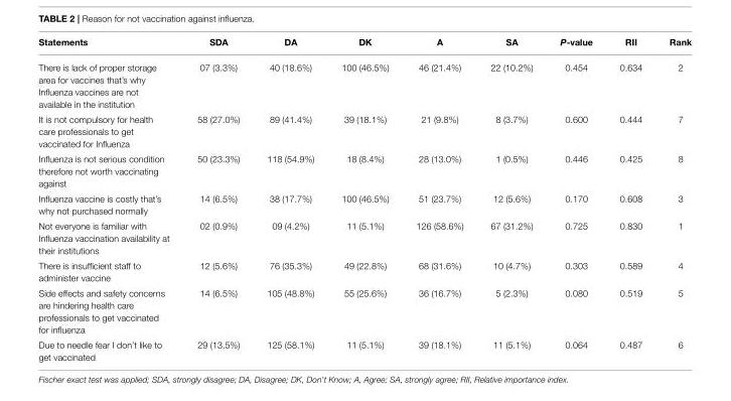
<table><thead><tr><td>Statements</td><td>SDA</td><td>DA</td><td>DK</td><td>A</td><td>SA</td><td>P-value</td><td>RII</td><td>Rank</td></tr></thead><tbody><tr><td>There is lack of proper storage area for vaccines that’s why Influenza vaccines are not available in the institution</td><td>07 (3.3%)</td><td>40 (18.6%)</td><td>100 (46.5%)</td><td>46 (21.4%)</td><td>22 (10.2%)</td><td>0.454</td><td>0.634</td><td>2</td></tr><tr><td>It is not compulsory for health care professionals to get vaccinated for Influenza</td><td>58 (27.0%)</td><td>89 (41.4%)</td><td>39 (18.1%)</td><td>21 (9.8%)</td><td>8 (3.7%)</td><td>0.600</td><td>0.444</td><td>7</td></tr><tr><td>Influenza is not serious condition therefore not worth vaccinating against</td><td>50 (23.3%)</td><td>118 (54.9%)</td><td>18 (8.4%)</td><td>28 (13.0%)</td><td>1 (0.5%)</td><td>0.446</td><td>0.425</td><td>8</td></tr><tr><td>Influenza vaccine is costly that’s why not purchased normally</td><td>14 (6.5%)</td><td>38 (17.7%)</td><td>100 (46.5%)</td><td>51 (23.7%)</td><td>12 (5.6%)</td><td>0.170</td><td>0.608</td><td>3</td></tr><tr><td>Not everyone is familiar with Influenza vaccination availability at their institutions</td><td>02 (0.9%)</td><td>09 (4.2%)</td><td>11 (5.1%)</td><td>126 (58.6%)</td><td>67 (31.2%)</td><td>0.725</td><td>0.830</td><td>1</td></tr><tr><td>There is insufficient staff to administer vaccine</td><td>12 (5.6%)</td><td>76 (35.3%)</td><td>49 (22.8%)</td><td>68 (31.6%)</td><td>10 (4.7%)</td><td>0.303</td><td>0.589</td><td>4</td></tr><tr><td>Side effects and safety concerns are hindering health care professionals to get vaccinated for influenza</td><td>14 (6.5%)</td><td>105 (48.8%)</td><td>55 (25.6%)</td><td>36 (16.7%)</td><td>5 (2.3%)</td><td>0.080</td><td>0.519</td><td>5</td></tr><tr><td>Due to needle fear I don’t like to get vaccinated</td><td>29 (13.5%)</td><td>125 (58.1%)</td><td>11 (5.1%)</td><td>39 (18.1%)</td><td>11 (5.1%)</td><td>0.064</td><td>0.487</td><td>6</td></tr></tbody></table>